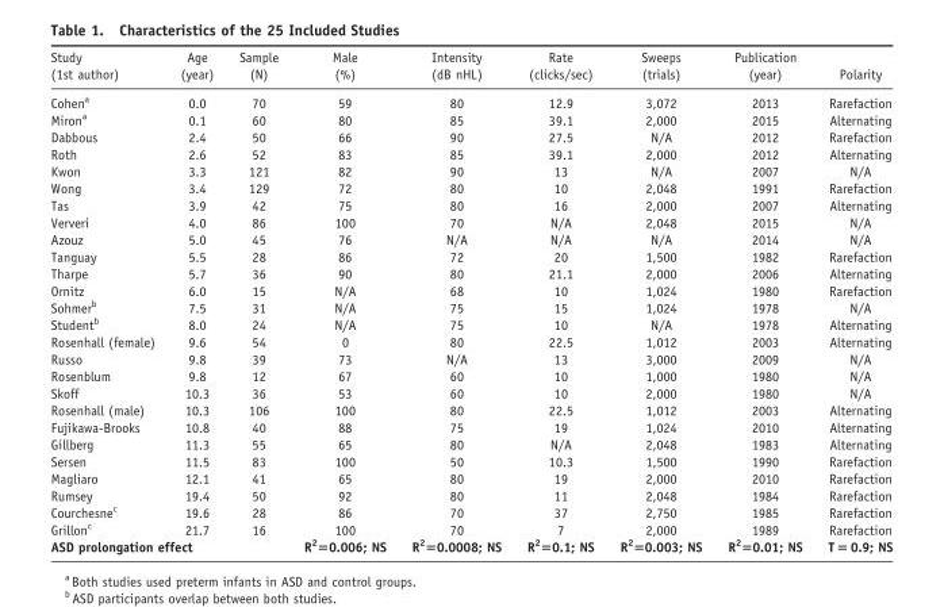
<table><thead><tr><td>Study (1st author)</td><td>Age (year)</td><td>Sample (N)</td><td>Male (%)</td><td>Intensity (dB nHL)</td><td>Rate (clicks/sec)</td><td>Sweeps (trials)</td><td>Publication (year)</td><td>Polarity</td></tr></thead><tbody><tr><td>Cohen<sup>a</sup></td><td>0.0</td><td>70</td><td>59</td><td>80</td><td>12.9</td><td>3,072</td><td>2013</td><td>Rarefaction</td></tr><tr><td>Miron<sup>a</sup></td><td>0.1</td><td>60</td><td>80</td><td>85</td><td>39.1</td><td>2,000</td><td>2015</td><td>Alternating</td></tr><tr><td>Dabbous</td><td>2.4</td><td>50</td><td>66</td><td>90</td><td>27.5</td><td>N/A</td><td>2012</td><td>Rarefaction</td></tr><tr><td>Roth</td><td>2.6</td><td>52</td><td>83</td><td>85</td><td>39.1</td><td>2,000</td><td>2012</td><td>Alternating</td></tr><tr><td>Kwon</td><td>3.3</td><td>121</td><td>82</td><td>90</td><td>13</td><td>N/A</td><td>2007</td><td>N/A</td></tr><tr><td>Wong</td><td>3.4</td><td>129</td><td>72</td><td>80</td><td>10</td><td>2,048</td><td>1991</td><td>Rarefaction</td></tr><tr><td>Tas</td><td>3.9</td><td>42</td><td>75</td><td>80</td><td>16</td><td>2,000</td><td>2007</td><td>Alternating</td></tr><tr><td>Ververi</td><td>4.0</td><td>86</td><td>100</td><td>70</td><td>N/A</td><td>2,048</td><td>2015</td><td>N/A</td></tr><tr><td>Azouz</td><td>5.0</td><td>45</td><td>76</td><td>N/A</td><td>N/A</td><td>N/A</td><td>2014</td><td>N/A</td></tr><tr><td>Tanguay</td><td>5.5</td><td>28</td><td>86</td><td>72</td><td>20</td><td>1,500</td><td>1982</td><td>Rarefaction</td></tr><tr><td>Tharpe</td><td>5.7</td><td>36</td><td>90</td><td>80</td><td>21.1</td><td>2,000</td><td>2006</td><td>Alternating</td></tr><tr><td>Ornitz</td><td>6.0</td><td>15</td><td>N/A</td><td>68</td><td>10</td><td>1,024</td><td>1980</td><td>Rarefaction</td></tr><tr><td>Sohmer<sup>b</sup></td><td>7.5</td><td>31</td><td>N/A</td><td>75</td><td>15</td><td>1,024</td><td>1978</td><td>N/A</td></tr><tr><td>Student<sup>b</sup></td><td>8.0</td><td>24</td><td>N/A</td><td>75</td><td>10</td><td>N/A</td><td>1978</td><td>Alternating</td></tr><tr><td>Rosenhall (female)</td><td>9.6</td><td>54</td><td>0</td><td>80</td><td>22.5</td><td>1,012</td><td>2003</td><td>Alternating</td></tr><tr><td>Russo</td><td>9.8</td><td>39</td><td>73</td><td>N/A</td><td>13</td><td>3,000</td><td>2009</td><td>N/A</td></tr><tr><td>Rosenblum</td><td>9.8</td><td>12</td><td>67</td><td>60</td><td>10</td><td>1,000</td><td>1980</td><td>N/A</td></tr><tr><td>Skoff</td><td>10.3</td><td>36</td><td>53</td><td>60</td><td>10</td><td>2,000</td><td>1980</td><td>N/A</td></tr><tr><td>Rosenhall (male)</td><td>10.3</td><td>106</td><td>100</td><td>80</td><td>22.5</td><td>1,012</td><td>2003</td><td>Alternating</td></tr><tr><td>Fujikawa-Brooks</td><td>10.8</td><td>40</td><td>88</td><td>75</td><td>19</td><td>1,024</td><td>2010</td><td>Alternating</td></tr><tr><td>Gillberg</td><td>11.3</td><td>55</td><td>65</td><td>80</td><td>N/A</td><td>2,048</td><td>1983</td><td>Alternating</td></tr><tr><td>Sersen</td><td>11.5</td><td>83</td><td>100</td><td>50</td><td>10.3</td><td>1,500</td><td>1990</td><td>Rarefaction</td></tr><tr><td>Magliaro</td><td>12.1</td><td>41</td><td>65</td><td>80</td><td>19</td><td>2,000</td><td>2010</td><td>Rarefaction</td></tr><tr><td>Rumsey</td><td>19.4</td><td>50</td><td>92</td><td>80</td><td>11</td><td>2,048</td><td>1984</td><td>Rarefaction</td></tr><tr><td>Courchesne<sup>c</sup></td><td>19.6</td><td>28</td><td>86</td><td>70</td><td>37</td><td>2,750</td><td>1985</td><td>Rarefaction</td></tr><tr><td>Grillon<sup>c</sup></td><td>21.7</td><td>16</td><td>100</td><td>70</td><td>7</td><td>2,000</td><td>1989</td><td>Rarefaction</td></tr><tr><td colspan="3">ASD prolongation effect</td><td>R2=0.006; NS</td><td>R2=0.0008; NS</td><td>R2=0.1; NS</td><td>R2=0.003; NS</td><td>R2=0.01; NS</td><td>T = 0.9; NS</td></tr></tbody></table>